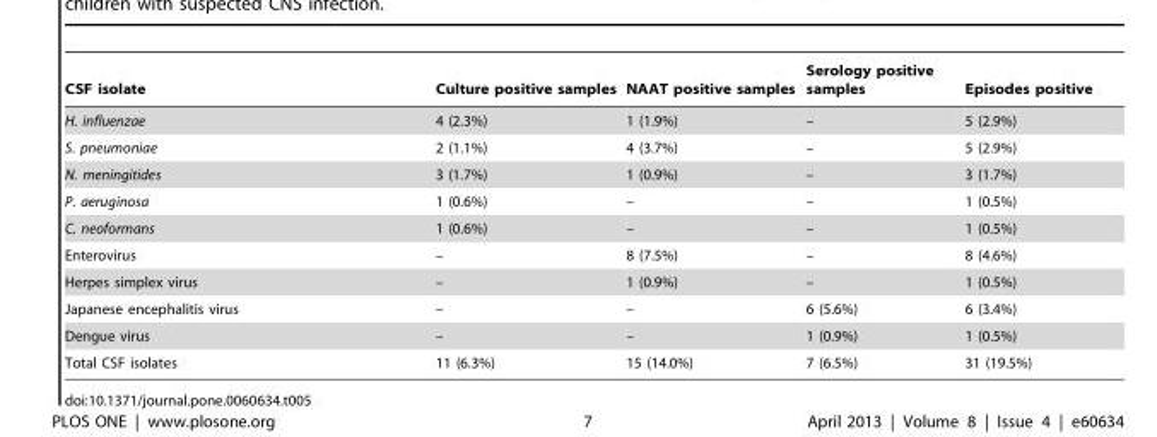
<table><thead><tr><td>CSF isolate</td><td>Culture positive samples</td><td>NAAT positive samples</td><td>Serology positive samples</td><td>Episodes positive</td></tr></thead><tbody><tr><td>H. influenzae</td><td>4 (2.3%)</td><td>1 (1.9%)</td><td>–</td><td>5 (2.9%)</td></tr><tr><td>S. pneumoniae</td><td>2 (1.1%)</td><td>4 (3.7%)</td><td>–</td><td>5 (2.9%)</td></tr><tr><td>N. meningitides</td><td>3 (1.7%)</td><td>1 (0.9%)</td><td>–</td><td>3 (1.7%)</td></tr><tr><td>P. aeruginosa</td><td>1 (0.6%)</td><td>–</td><td>–</td><td>1 (0.5%)</td></tr><tr><td>C. neoformans</td><td>1 (0.6%)</td><td>–</td><td>–</td><td>1 (0.5%)</td></tr><tr><td>Enterovirus</td><td>–</td><td>8 (7.5%)</td><td>–</td><td>8 (4.6%)</td></tr><tr><td>Herpes simplex virus</td><td>–</td><td>1 (0.9%)</td><td>–</td><td>1 (0.5%)</td></tr><tr><td>Japanese encephalitis virus</td><td>–</td><td>–</td><td>6 (5.6%)</td><td>6 (3.4%)</td></tr><tr><td>Dengue virus</td><td>–</td><td>–</td><td>1 (0.9%)</td><td>1 (0.5%)</td></tr><tr><td>Total CSF isolates</td><td>11 (6.3%)</td><td>15 (14.0%)</td><td>7 (6.5%)</td><td>31 (19.5%)</td></tr></tbody></table>